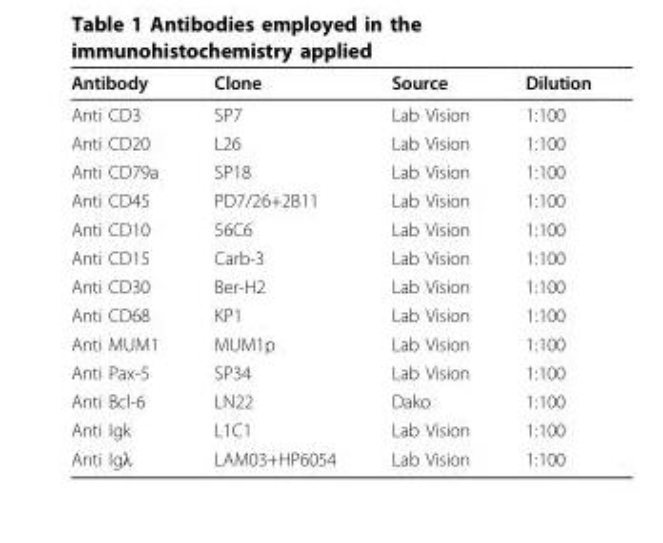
<table><thead><tr><td>Antibody</td><td>Clone</td><td>Source</td><td>Dilution</td></tr></thead><tbody><tr><td>Anti CD3</td><td>SP7</td><td>Lab Vision</td><td>1:100</td></tr><tr><td>Anti CD20</td><td>L26</td><td>Lab Vision</td><td>1:100</td></tr><tr><td>Anti CD79a</td><td>SP18</td><td>Lab Vision</td><td>1:100</td></tr><tr><td>Anti CD45</td><td>PD7/26+2B11</td><td>Lab Vision</td><td>1:100</td></tr><tr><td>Anti CD10</td><td>56C6</td><td>Lab Vision</td><td>1:100</td></tr><tr><td>Anti CD15</td><td>Carb-3</td><td>Lab Vision</td><td>1:100</td></tr><tr><td>Anti CD30</td><td>Ber-H2</td><td>Lab Vision</td><td>1:100</td></tr><tr><td>Anti CD68</td><td>KP1</td><td>Lab Vision</td><td>1:100</td></tr><tr><td>Anti MUM1</td><td>MUM1p</td><td>Lab Vision</td><td>1:100</td></tr><tr><td>Anti Pax-5</td><td>SP34</td><td>Lab Vision</td><td>1:100</td></tr><tr><td>Anti Bcl-6</td><td>LN22</td><td>Dako</td><td>1:100</td></tr><tr><td>Anti Igk</td><td>L1C1</td><td>Lab Vision</td><td>1:100</td></tr><tr><td>Anti Igλ</td><td>LAM03+HP6054</td><td>Lab Vision</td><td>1:100</td></tr></tbody></table>